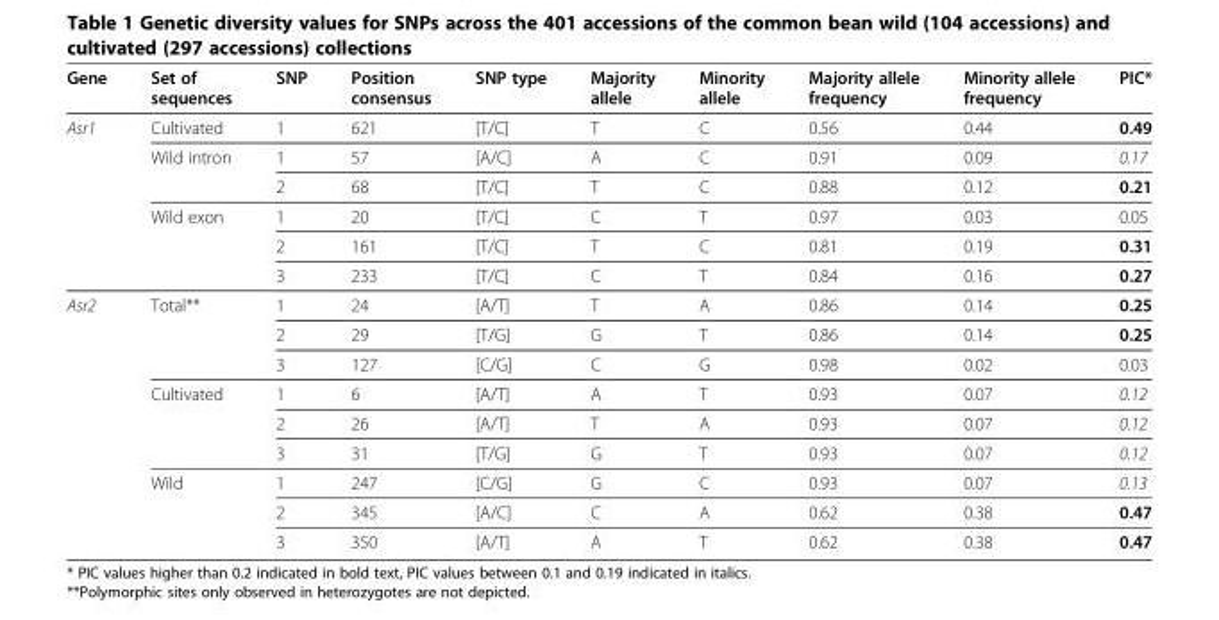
<table><thead><tr><td>Gene</td><td>Set of sequences</td><td>SNP</td><td>Position consensus</td><td>SNP type</td><td>Majority allele</td><td>Minority allele</td><td>Majority allele frequency</td><td>Minority allele frequency</td><td>PIC*</td></tr></thead><tbody><tr><td rowspan="6">Asr1</td><td>Cultivated</td><td>1</td><td>621</td><td>[T/C]</td><td>T</td><td>C</td><td>0.56</td><td>0.44</td><td>0.49</td></tr><tr><td rowspan="2">Wild intron</td><td>1</td><td>57</td><td>[A/C]</td><td>A</td><td>C</td><td>0.91</td><td>0.09</td><td>0.17</td></tr><tr><td>2</td><td>68</td><td>[T/C]</td><td>T</td><td>C</td><td>0.88</td><td>0.12</td><td>0.21</td></tr><tr><td rowspan="3">Wild exon</td><td>1</td><td>20</td><td>[T/C]</td><td>C</td><td>T</td><td>0.97</td><td>0.03</td><td>0.05</td></tr><tr><td>2</td><td>161</td><td>[T/C]</td><td>T</td><td>C</td><td>0.81</td><td>0.19</td><td>0.31</td></tr><tr><td>3</td><td>233</td><td>[T/C]</td><td>C</td><td>T</td><td>0.84</td><td>0.16</td><td>0.27</td></tr><tr><td rowspan="9">Asr2</td><td rowspan="3">Total**</td><td>1</td><td>24</td><td>[A/T]</td><td>T</td><td>A</td><td>0.86</td><td>0.14</td><td>0.25</td></tr><tr><td>2</td><td>29</td><td>[T/G]</td><td>G</td><td>T</td><td>0.86</td><td>0.14</td><td>0.25</td></tr><tr><td>3</td><td>127</td><td>[C/G]</td><td>C</td><td>G</td><td>0.98</td><td>0.02</td><td>0.03</td></tr><tr><td rowspan="3">Cultivated</td><td>1</td><td>6</td><td>[A/T]</td><td>A</td><td>T</td><td>0.93</td><td>0.07</td><td>0.12</td></tr><tr><td>2</td><td>26</td><td>[A/T]</td><td>T</td><td>A</td><td>0.93</td><td>0.07</td><td>0.12</td></tr><tr><td>3</td><td>31</td><td>[T/G]</td><td>G</td><td>T</td><td>0.93</td><td>0.07</td><td>0.12</td></tr><tr><td rowspan="3">Wild</td><td>1</td><td>247</td><td>[C/G]</td><td>G</td><td>C</td><td>0.93</td><td>0.07</td><td>0.13</td></tr><tr><td>2</td><td>345</td><td>[A/C]</td><td>C</td><td>A</td><td>0.62</td><td>0.38</td><td>0.47</td></tr><tr><td>3</td><td>350</td><td>[A/T]</td><td>A</td><td>T</td><td>0.62</td><td>0.38</td><td>0.47</td></tr></tbody></table>